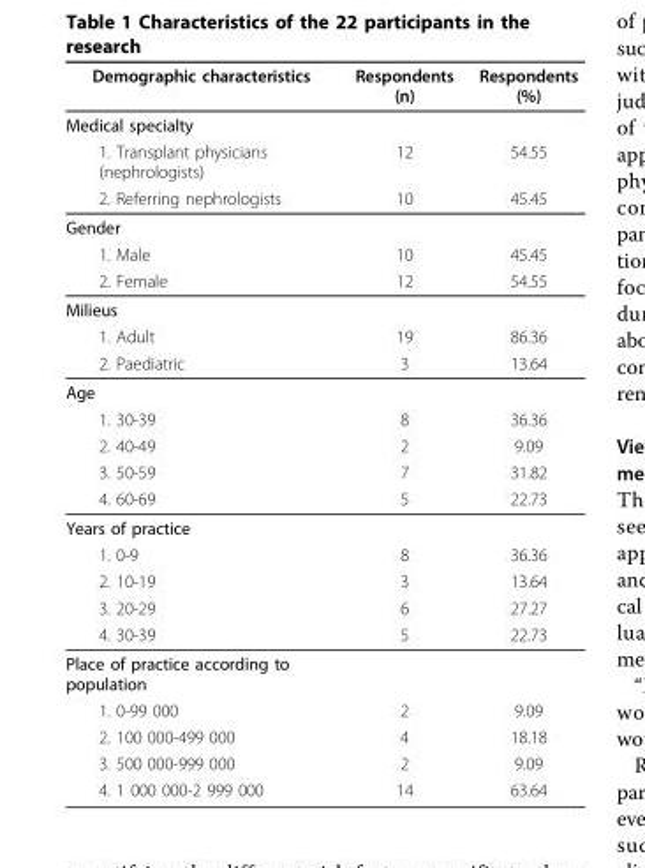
<table><thead><tr><td>Demographic characteristics</td><td>Respondents (n)</td><td>Respondents (%)</td></tr></thead><tbody><tr><td colspan="3">Medical specialty</td></tr><tr><td>1. Transplant physicians (nephrologists)</td><td>12</td><td>54.55</td></tr><tr><td>2. Referring nephrologists</td><td>10</td><td>45.45</td></tr><tr><td colspan="3">Gender</td></tr><tr><td>1. Male</td><td>10</td><td>45.45</td></tr><tr><td>2. Female</td><td>12</td><td>54.55</td></tr><tr><td colspan="3">Milieus</td></tr><tr><td>1. Adult</td><td>19</td><td>86.36</td></tr><tr><td>2. Paediatric</td><td>3</td><td>13.64</td></tr><tr><td colspan="3">Age</td></tr><tr><td>1. 30-39</td><td>8</td><td>36.36</td></tr><tr><td>2. 40-49</td><td>2</td><td>9.09</td></tr><tr><td>3. 50-59</td><td>7</td><td>31.82</td></tr><tr><td>4. 60-69</td><td>5</td><td>22.73</td></tr><tr><td colspan="3">Years of practice</td></tr><tr><td>1. 0-9</td><td>8</td><td>36.36</td></tr><tr><td>2. 10-19</td><td>3</td><td>13.64</td></tr><tr><td>3. 20-29</td><td>6</td><td>27.27</td></tr><tr><td>4. 30-39</td><td>5</td><td>22.73</td></tr><tr><td colspan="3">Place of practice according to population</td></tr><tr><td>1. 0-99 000</td><td>2</td><td>9.09</td></tr><tr><td>2. 100 000-499 000</td><td>4</td><td>18.18</td></tr><tr><td>3. 500 000-999 000</td><td>2</td><td>9.09</td></tr><tr><td>4. 1 000 000-2 999 000</td><td>14</td><td>63.64</td></tr></tbody></table>